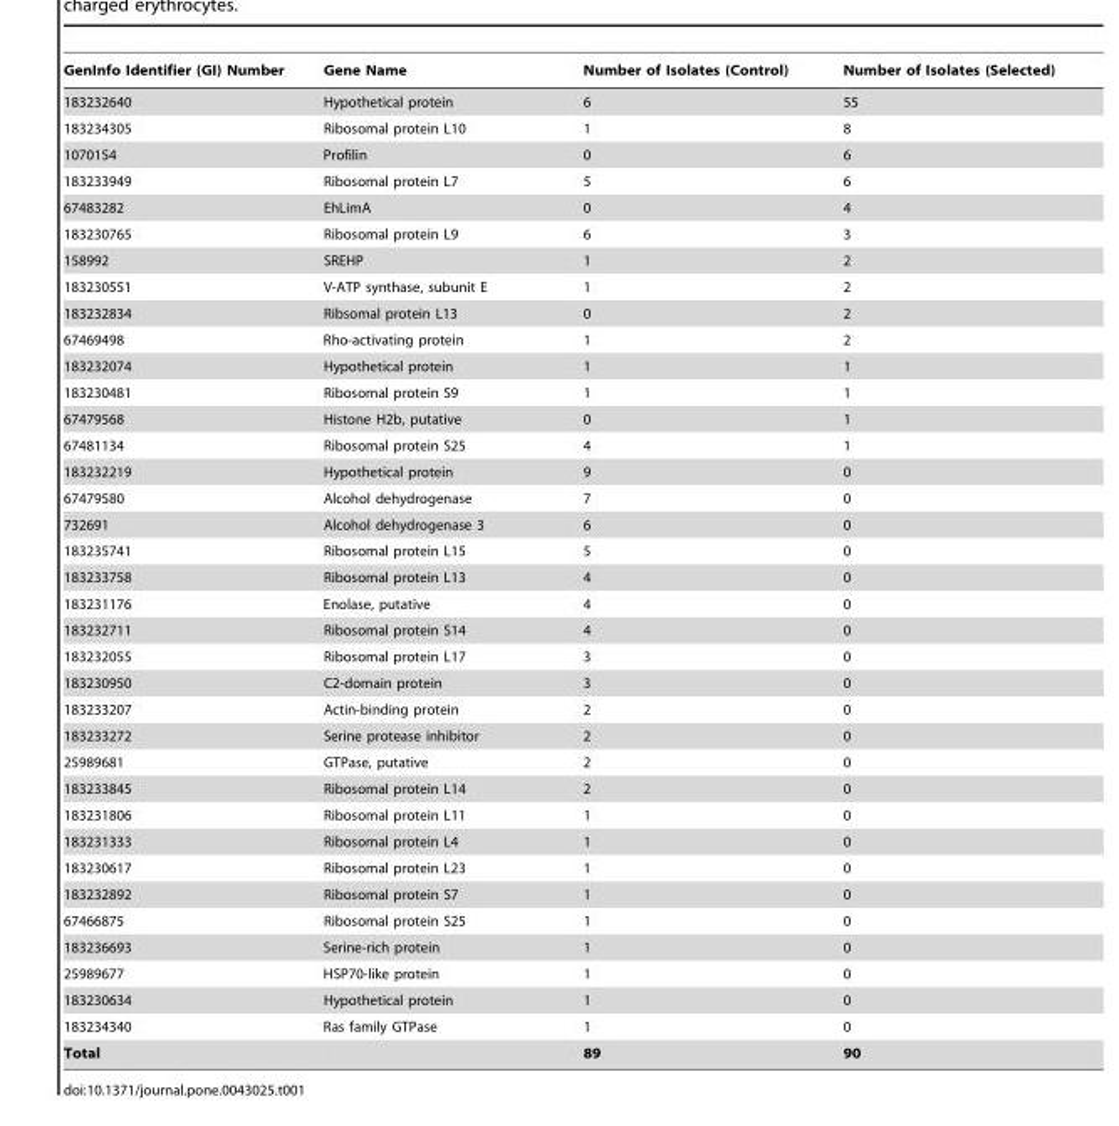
<table><thead><tr><td>GenInfo Identifier (GI) Number</td><td>Gene Name</td><td>Number of Isolates (Control)</td><td>Number of Isolates (Selected)</td></tr></thead><tbody><tr><td>183232640</td><td>Hypothetical protein</td><td>6</td><td>55</td></tr><tr><td>183234305</td><td>Ribosomal protein L10</td><td>1</td><td>8</td></tr><tr><td>1070154</td><td>Profilin</td><td>0</td><td>6</td></tr><tr><td>183233949</td><td>Ribosomal protein L7</td><td>5</td><td>6</td></tr><tr><td>67483282</td><td>EhLimA</td><td>0</td><td>4</td></tr><tr><td>183230765</td><td>Ribosomal protein L9</td><td>6</td><td>3</td></tr><tr><td>158992</td><td>SREHP</td><td>1</td><td>2</td></tr><tr><td>183230551</td><td>V-ATP synthase, subunit E</td><td>1</td><td>2</td></tr><tr><td>183232834</td><td>Ribsomal protein L13</td><td>0</td><td>2</td></tr><tr><td>67469498</td><td>Rho-activating protein</td><td>1</td><td>2</td></tr><tr><td>183232074</td><td>Hypothetical protein</td><td>1</td><td>1</td></tr><tr><td>183230481</td><td>Ribosomal protein S9</td><td>1</td><td>1</td></tr><tr><td>67479568</td><td>Histone H2b, putative</td><td>0</td><td>1</td></tr><tr><td>67481134</td><td>Ribosomal protein S25</td><td>4</td><td>1</td></tr><tr><td>183232219</td><td>Hypothetical protein</td><td>9</td><td>0</td></tr><tr><td>67479580</td><td>Alcohol dehydrogenase</td><td>7</td><td>0</td></tr><tr><td>732691</td><td>Alcohol dehydrogenase 3</td><td>6</td><td>0</td></tr><tr><td>183235741</td><td>Ribosomal protein L15</td><td>5</td><td>0</td></tr><tr><td>183233758</td><td>Ribosomal protein L13</td><td>4</td><td>0</td></tr><tr><td>183231176</td><td>Enolase, putative</td><td>4</td><td>0</td></tr><tr><td>183232711</td><td>Ribosomal protein S14</td><td>4</td><td>0</td></tr><tr><td>183232055</td><td>Ribosomal protein L17</td><td>3</td><td>0</td></tr><tr><td>183230950</td><td>C2-domain protein</td><td>3</td><td>0</td></tr><tr><td>183233207</td><td>Actin-binding protein</td><td>2</td><td>0</td></tr><tr><td>183233272</td><td>Serine protease inhibitor</td><td>2</td><td>0</td></tr><tr><td>25989681</td><td>GTPase, putative</td><td>2</td><td>0</td></tr><tr><td>183233845</td><td>Ribosomal protein L14</td><td>2</td><td>0</td></tr><tr><td>183231806</td><td>Ribosomal protein L11</td><td>1</td><td>0</td></tr><tr><td>183231333</td><td>Ribosomal protein L4</td><td>1</td><td>0</td></tr><tr><td>183230617</td><td>Ribosomal protein L23</td><td>1</td><td>0</td></tr><tr><td>183232892</td><td>Ribosomal protein S7</td><td>1</td><td>0</td></tr><tr><td>67466875</td><td>Ribosomal protein S25</td><td>1</td><td>0</td></tr><tr><td>183236693</td><td>Serine-rich protein</td><td>1</td><td>0</td></tr><tr><td>25989677</td><td>HSP70-like protein</td><td>1</td><td>0</td></tr><tr><td>183230634</td><td>Hypothetical protein</td><td>1</td><td>0</td></tr><tr><td>183234340</td><td>Ras family GTPase</td><td>1</td><td>0</td></tr><tr><td>Total</td><td></td><td>89</td><td>90</td></tr></tbody></table>